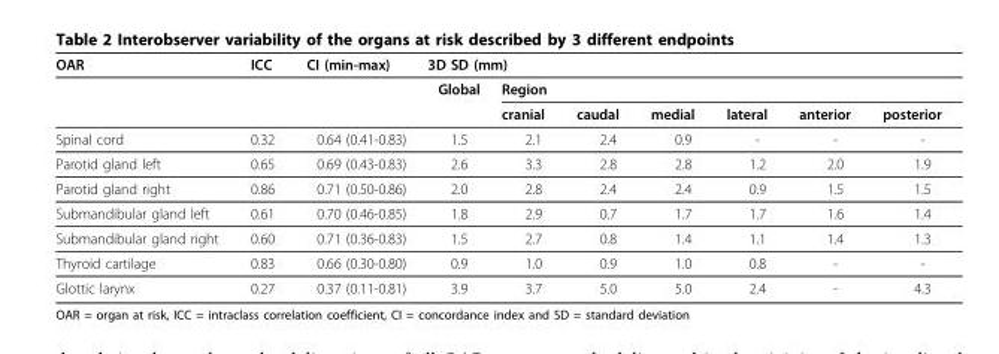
<table><thead><tr><td rowspan="3">OAR</td><td rowspan="3">ICC</td><td rowspan="3">CI (min-max)</td><td colspan="7">3D SD (mm)</td></tr><tr><td rowspan="2">Global</td><td colspan="6">Region</td></tr><tr><td>cranial</td><td>caudal</td><td>medial</td><td>lateral</td><td>anterior</td><td>posterior</td></tr></thead><tbody><tr><td>Spinal cord</td><td>0.32</td><td>0.64 (0.41-0.83)</td><td>1.5</td><td>2.1</td><td>2.4</td><td>0.9</td><td>-</td><td>-</td><td>-</td></tr><tr><td>Parotid gland left</td><td>0.65</td><td>0.69 (0.43-0.83)</td><td>2.6</td><td>3.3</td><td>2.8</td><td>2.8</td><td>1.2</td><td>2.0</td><td>1.9</td></tr><tr><td>Parotid gland right</td><td>0.86</td><td>0.71 (0.50-0.86)</td><td>2.0</td><td>2.8</td><td>2.4</td><td>2.4</td><td>0.9</td><td>1.5</td><td>1.5</td></tr><tr><td>Submandibular gland left</td><td>0.61</td><td>0.70 (0.46-0.85)</td><td>1.8</td><td>2.9</td><td>0.7</td><td>1.7</td><td>1.7</td><td>1.6</td><td>1.4</td></tr><tr><td>Submandibular gland right</td><td>0.60</td><td>0.71 (0.36-0.83)</td><td>1.5</td><td>2.7</td><td>0.8</td><td>1.4</td><td>1.1</td><td>1.4</td><td>1.3</td></tr><tr><td>Thyroid cartilage</td><td>0.83</td><td>0.66 (0.30-0.80)</td><td>0.9</td><td>1.0</td><td>0.9</td><td>1.0</td><td>0.8</td><td>-</td><td>-</td></tr><tr><td>Glottic larynx</td><td>0.27</td><td>0.37 (0.11-0.81)</td><td>3.9</td><td>3.7</td><td>5.0</td><td>5.0</td><td>2.4</td><td>-</td><td>4.3</td></tr></tbody></table>